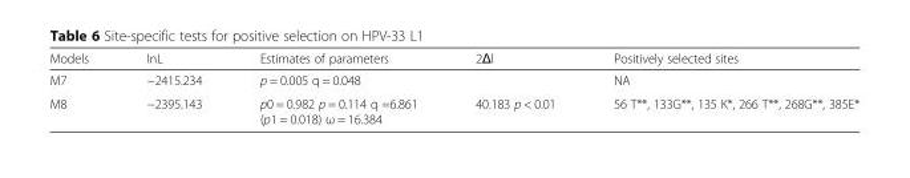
<table><thead><tr><td>Models</td><td>InL</td><td>Estimates of parameters</td><td>2Δl</td><td>Positively selected sites</td></tr></thead><tbody><tr><td>M7</td><td>−2415.234</td><td>p = 0.005 q = 0.048</td><td></td><td>NA</td></tr><tr><td>M8</td><td>−2395.143</td><td>p0 = 0.982 p = 0.114 q =6.861 (p1 = 0.018) ω = 16.384</td><td>40.183 p &lt; 0.01</td><td>56 T**, 133G**, 135 K*, 266 T**, 268G**, 385E*</td></tr></tbody></table>